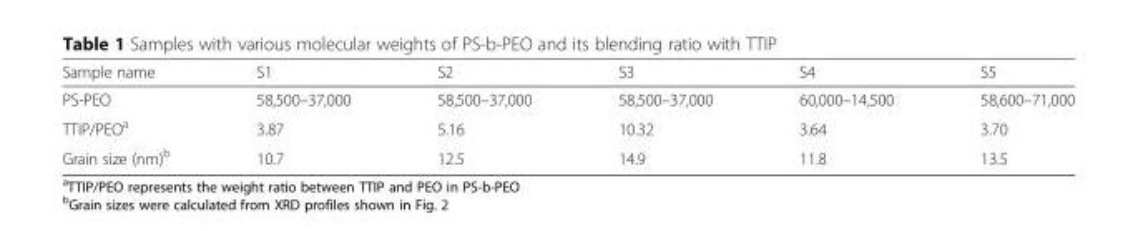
<table><thead><tr><td>Sample name</td><td>S1</td><td>S2</td><td>S3</td><td>S4</td><td>S5</td></tr></thead><tbody><tr><td>PS-PEO</td><td>58,500–37,000</td><td>58,500–37,000</td><td>58,500–37,000</td><td>60,000–14,500</td><td>58,600–71,000</td></tr><tr><td>TTIP/PEO<sup>a</sup></td><td>3.87</td><td>5.16</td><td>10.32</td><td>3.64</td><td>3.70</td></tr><tr><td>Grain size (nm)<sup>b</sup></td><td>10.7</td><td>12.5</td><td>14.9</td><td>11.8</td><td>13.5</td></tr></tbody></table>